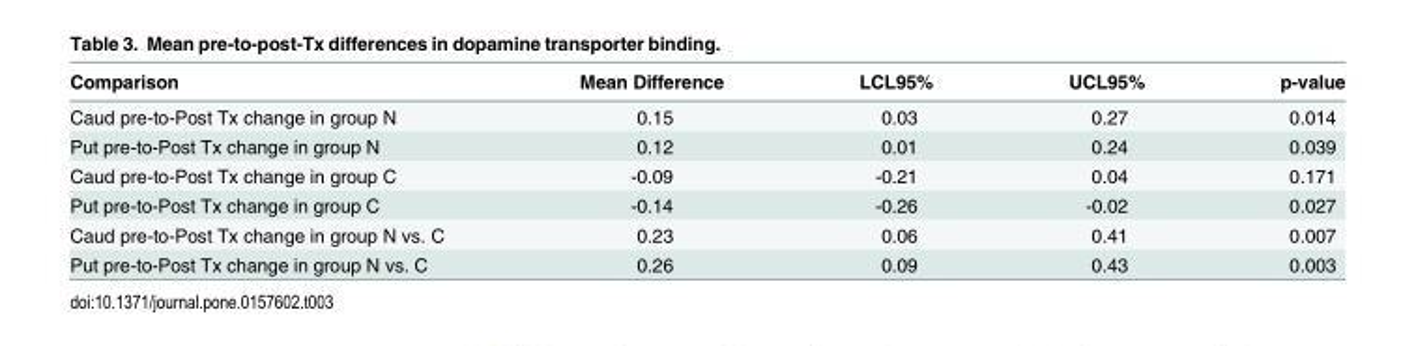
<table><thead><tr><td>Comparison</td><td>Mean Difference</td><td>LCL95%</td><td>UCL95%</td><td>p-value</td></tr></thead><tbody><tr><td>Caud pre-to-Post Tx change in group N</td><td>0.15</td><td>0.03</td><td>0.27</td><td>0.014</td></tr><tr><td>Put pre-to-Post Tx change in group N</td><td>0.12</td><td>0.01</td><td>0.24</td><td>0.039</td></tr><tr><td>Caud pre-to-Post Tx change in group C</td><td>-0.09</td><td>-0.21</td><td>0.04</td><td>0.171</td></tr><tr><td>Put pre-to-Post Tx change in group C</td><td>-0.14</td><td>-0.26</td><td>-0.02</td><td>0.027</td></tr><tr><td>Caud pre-to-Post Tx change in group N vs. C</td><td>0.23</td><td>0.06</td><td>0.41</td><td>0.007</td></tr><tr><td>Put pre-to-Post Tx change in group N vs. C</td><td>0.26</td><td>0.09</td><td>0.43</td><td>0.003</td></tr></tbody></table>